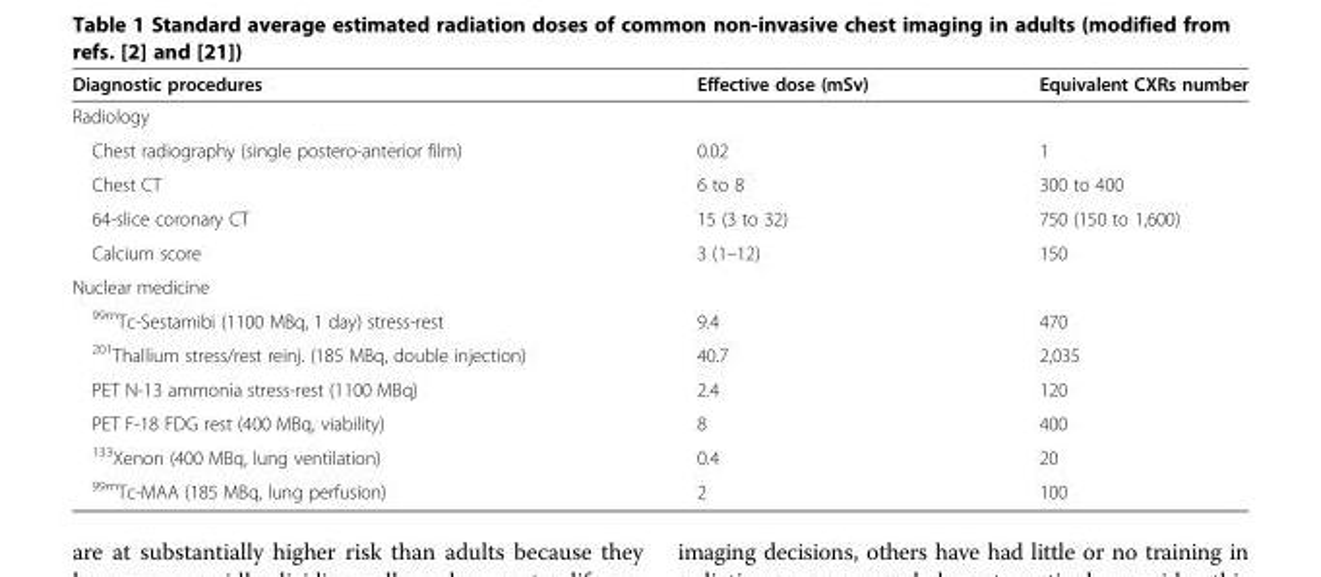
<table><thead><tr><td>Diagnostic procedures</td><td>Effective dose (mSv)</td><td>Equivalent CXRs number</td></tr></thead><tbody><tr><td colspan="3">Radiology</td></tr><tr><td>Chest radiography (single postero-anterior film)</td><td>0.02</td><td>1</td></tr><tr><td>Chest CT</td><td>6 to 8</td><td>300 to 400</td></tr><tr><td>64-slice coronary CT</td><td>15 (3 to 32)</td><td>750 (150 to 1,600)</td></tr><tr><td>Calcium score</td><td>3 (1–12)</td><td>150</td></tr><tr><td colspan="3">Nuclear medicine</td></tr><tr><td><sup>99m</sup>Tc-Sestamibi (1100 MBq, 1 day) stress-rest</td><td>9.4</td><td>470</td></tr><tr><td><sup>201</sup>Thallium stress/rest reinj. (185 MBq, double injection)</td><td>40.7</td><td>2,035</td></tr><tr><td>PET N-13 ammonia stress-rest (1100 MBq)</td><td>2.4</td><td>120</td></tr><tr><td>PET F-18 FDG rest (400 MBq, viability)</td><td>8</td><td>400</td></tr><tr><td><sup>133</sup>Xenon (400 MBq, lung ventilation)</td><td>0.4</td><td>20</td></tr><tr><td><sup>99m</sup>Tc-MAA (185 MBq, lung perfusion)</td><td>2</td><td>100</td></tr></tbody></table>